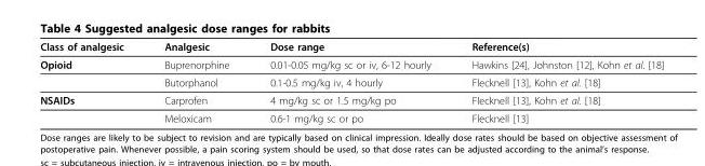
<table><thead><tr><td>Class of analgesic</td><td>Analgesic</td><td>Dose range</td><td>Reference(s)</td></tr></thead><tbody><tr><td rowspan="2">Opioid</td><td>Buprenorphine</td><td>0.01-0.05 mg/kg sc or iv, 6-12 hourly</td><td>Hawkins [24], Johnston [12], Kohn et al. [18]</td></tr><tr><td>Butorphanol</td><td>0.1-0.5 mg/kg iv, 4 hourly</td><td>Flecknell [13], Kohn et al. [18]</td></tr><tr><td rowspan="2">NSAIDs</td><td>Carprofen</td><td>4 mg/kg sc or 1.5 mg/kg po</td><td>Flecknell [13], Kohn et al. [18]</td></tr><tr><td>Meloxicam</td><td>0.6-1 mg/kg sc or po</td><td>Flecknell [13]</td></tr></tbody></table>